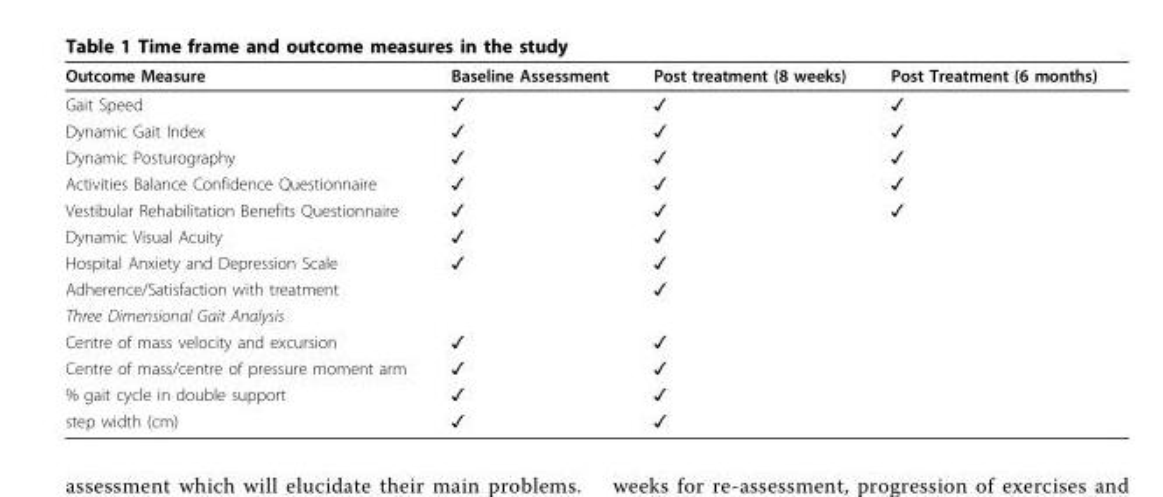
<table><thead><tr><td>Outcome Measure</td><td>Baseline Assessment</td><td>Post treatment (8 weeks)</td><td>Post Treatment (6 months)</td></tr></thead><tbody><tr><td>Gait Speed</td><td>✓</td><td>✓</td><td>✓</td></tr><tr><td>Dynamic Gait Index</td><td>✓</td><td>✓</td><td>✓</td></tr><tr><td>Dynamic Posturography</td><td>✓</td><td>✓</td><td>✓</td></tr><tr><td>Activities Balance Confidence Questionnaire</td><td>✓</td><td>✓</td><td>✓</td></tr><tr><td>Vestibular Rehabilitation Benefits Questionnaire</td><td>✓</td><td>✓</td><td>✓</td></tr><tr><td>Dynamic Visual Acuity</td><td>✓</td><td>✓</td><td></td></tr><tr><td>Hospital Anxiety and Depression Scale</td><td>✓</td><td>✓</td><td></td></tr><tr><td colspan="4">Adherence/Satisfaction with treatment ✓</td></tr><tr><td colspan="4">Three Dimensional Gait Analysis</td></tr><tr><td>Centre of mass velocity and excursion</td><td>✓</td><td>✓</td><td></td></tr><tr><td>Centre of mass/centre of pressure moment arm</td><td>✓</td><td>✓</td><td></td></tr><tr><td>% gait cycle in double support</td><td>✓</td><td>✓</td><td></td></tr><tr><td>step width (cm)</td><td>✓</td><td>✓</td><td></td></tr></tbody></table>